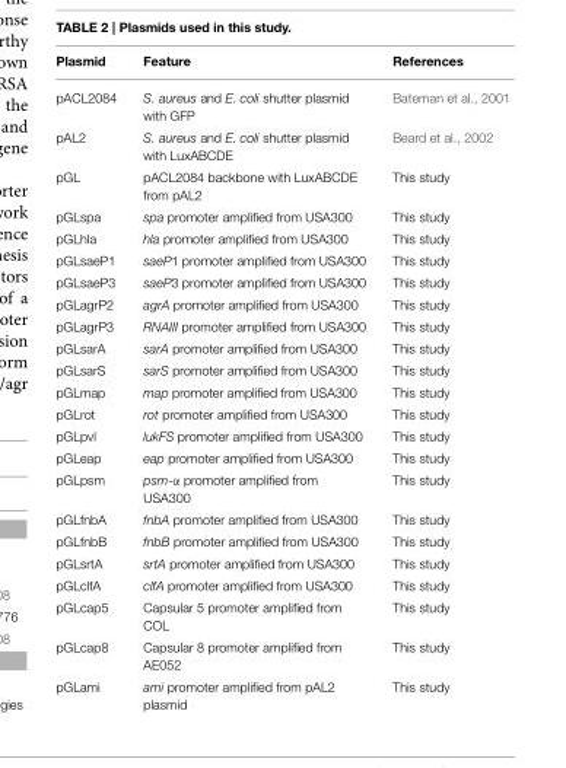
<table><thead><tr><td>Plasmid</td><td>Feature</td><td>References</td></tr></thead><tbody><tr><td>pACL2084</td><td>S. aureus and E. coli shutter plasmid with GFP</td><td>Bateman et al., 2001</td></tr><tr><td>pAL2</td><td>S. aureus and E. coli shutter plasmid with LuxABCDE</td><td>Beard et al., 2002</td></tr><tr><td>pGL</td><td>pACL2084 backbone with LuxABCDE from pAL2</td><td>This study</td></tr><tr><td>pGLspa</td><td>spa promoter amplified from USA300</td><td>This study</td></tr><tr><td>pGLhla</td><td>hla promoter amplified from USA300</td><td>This study</td></tr><tr><td>pGLsaeP1</td><td>saeP1 promoter amplified from USA300</td><td>This study</td></tr><tr><td>pGLsaeP3</td><td>saeP3 promoter amplified from USA300</td><td>This study</td></tr><tr><td>pGLagrP2</td><td>agrA promoter amplified from USA300</td><td>This study</td></tr><tr><td>pGLagrP3</td><td>RNAIII promoter amplified from USA300</td><td>This study</td></tr><tr><td>pGLsarA</td><td>sarA promoter amplified from USA300</td><td>This study</td></tr><tr><td>pGLsarS</td><td>sarS promoter amplified from USA300</td><td>This study</td></tr><tr><td>pGLmap</td><td>map promoter amplified from USA300</td><td>This study</td></tr><tr><td>pGLrot</td><td>rot promoter amplified from USA300</td><td>This study</td></tr><tr><td>pGLpvl</td><td>lukFS promoter amplified from USA300</td><td>This study</td></tr><tr><td>pGLeap</td><td>eap promoter amplified from USA300</td><td>This study</td></tr><tr><td>pGLpsm</td><td>psm-α promoter amplified from USA300</td><td>This study</td></tr><tr><td>pGLfnbA</td><td>fnbA promoter amplified from USA300</td><td>This study</td></tr><tr><td>pGLfnbB</td><td>fnbB promoter amplified from USA300</td><td>This study</td></tr><tr><td>pGLsrtA</td><td>srtA promoter amplified from USA300</td><td>This study</td></tr><tr><td>pGLclfA</td><td>clfA promoter amplified from USA300</td><td>This study</td></tr><tr><td>pGLcap5</td><td>Capsular 5 promoter amplified from COL</td><td>This study</td></tr><tr><td>pGLcap8</td><td>Capsular 8 promoter amplified from AE052</td><td>This study</td></tr><tr><td>pGLami</td><td>ami promoter amplified from pAL2 plasmid</td><td>This study</td></tr></tbody></table>